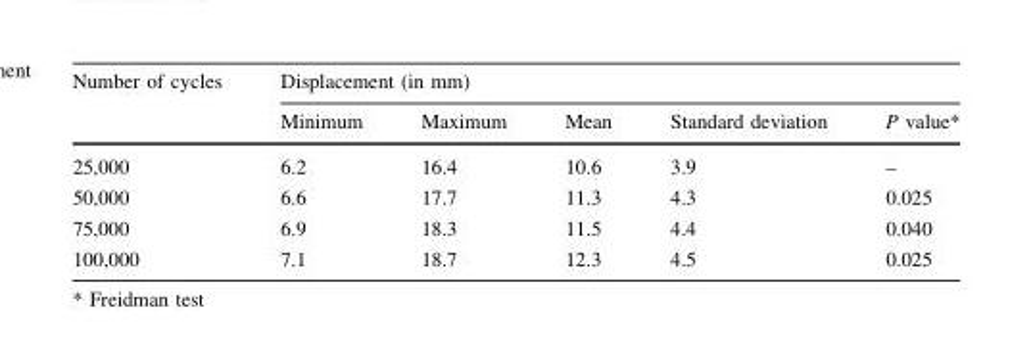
<table><thead><tr><td rowspan="2">Number of cycles</td><td colspan="5">Displacement (in mm)</td></tr><tr><td>Minimum</td><td>Maximum</td><td>Mean</td><td>Standard deviation</td><td>P value*</td></tr></thead><tbody><tr><td>25,000</td><td>6.2</td><td>16.4</td><td>10.6</td><td>3.9</td><td>–</td></tr><tr><td>50,000</td><td>6.6</td><td>17.7</td><td>11.3</td><td>4.3</td><td>0.025</td></tr><tr><td>75,000</td><td>6.9</td><td>18.3</td><td>11.5</td><td>4.4</td><td>0.040</td></tr><tr><td>100,000</td><td>7.1</td><td>18.7</td><td>12.3</td><td>4.5</td><td>0.025</td></tr></tbody></table>